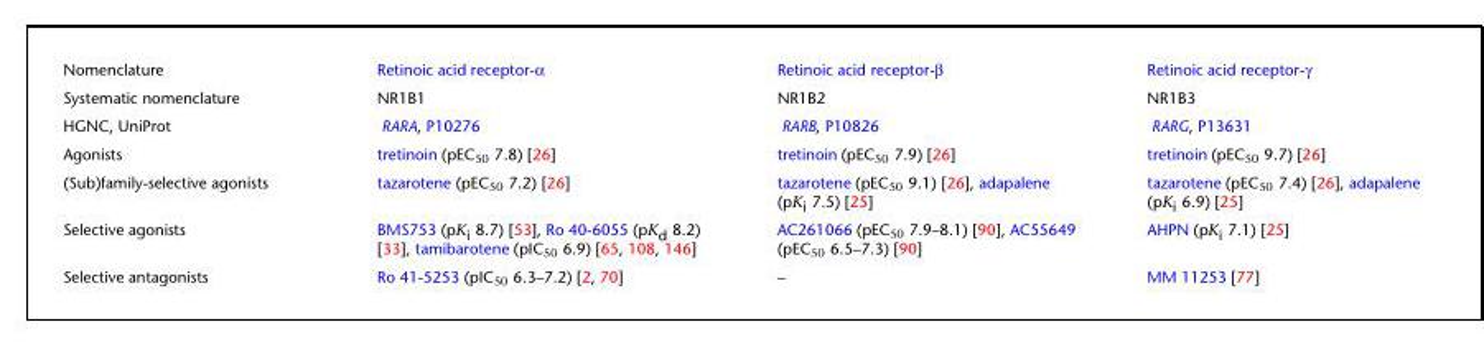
<table><tbody><tr><td>Nomenclature</td><td>Retinoic acid receptor-α</td><td>Retinoic acid receptor-β</td><td>Retinoic acid receptor-γ</td></tr><tr><td>Systematic nomenclature</td><td>NR1B1</td><td>NR1B2</td><td>NR1B3</td></tr><tr><td>HGNC, UniProt</td><td>RARA, P10276</td><td>RARB, P10826</td><td>RARG, P13631</td></tr><tr><td>Agonists</td><td>tretinoin (pEC<sub>50</sub> 7.8) [26]</td><td>tretinoin (pEC<sub>50</sub> 7.9) [26]</td><td>tretinoin (pEC<sub>50</sub> 9.7) [26]</td></tr><tr><td>(Sub)family-selective agonists</td><td>tazarotene (pEC<sub>50</sub> 7.2) [26]</td><td>tazarotene (pEC<sub>50</sub> 9.1) [26], adapalene (pK<sub>i</sub> 7.5) [25]</td><td>tazarotene (pEC<sub>50</sub> 7.4) [26], adapalene (pK<sub>i</sub> 6.9) [25]</td></tr><tr><td>Selective agonists</td><td>BMS753 (pK<sub>i</sub> 8.7) [53], Ro 40-6055 (pK<sub>d</sub> 8.2) [33], tamibarotene (pIC<sub>50</sub> 6.9) [65, 108, 146]</td><td>AC261066 (pEC<sub>50</sub> 7.9–8.1) [90], AC55649 (pEC<sub>50</sub> 6.5–7.3) [90]</td><td>AHPN (pK<sub>i</sub> 7.1) [25]</td></tr><tr><td>Selective antagonists</td><td>Ro 41-5253 (pIC<sub>50</sub> 6.3–7.2) [2, 70]</td><td>–</td><td>MM 11253 [77]</td></tr></tbody></table>